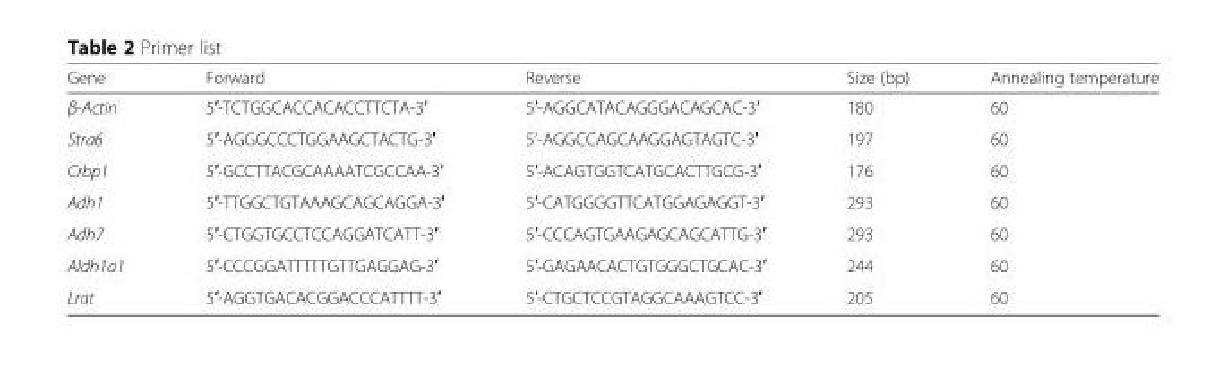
<table><thead><tr><td>Gene</td><td>Forward</td><td>Reverse</td><td>Size (bp)</td><td>Annealing temperature</td></tr></thead><tbody><tr><td>β-Actin</td><td>5′-TCTGGCACCACACCTTCTA-3′</td><td>5′-AGGCATACAGGGACAGCAC-3′</td><td>180</td><td>60</td></tr><tr><td>Stra6</td><td>5′-AGGGCCCTGGAAGCTACTG-3′</td><td>5’-AGGCCAGCAAGGAGTAGTC-3′</td><td>197</td><td>60</td></tr><tr><td>Crbp1</td><td>5′-GCCTTACGCAAAATCGCCAA-3′</td><td>5′-ACAGTGGTCATGCACTTGCG-3′</td><td>176</td><td>60</td></tr><tr><td>Adh1</td><td>5′-TTGGCTGTAAAGCAGCAGGA-3′</td><td>5′-CATGGGGTTCATGGAGAGGT-3′</td><td>293</td><td>60</td></tr><tr><td>Adh7</td><td>5′-CTGGTGCCTCCAGGATCATT-3′</td><td>5′-CCCAGTGAAGAGCAGCATTG-3′</td><td>293</td><td>60</td></tr><tr><td>Aldh1a1</td><td>5′-CCCGGATTTTTGTTGAGGAG-3′</td><td>5′-GAGAACACTGTGGGCTGCAC-3′</td><td>244</td><td>60</td></tr><tr><td>Lrat</td><td>5′-AGGTGACACGGACCCATTTT-3′</td><td>5′-CTGCTCCGTAGGCAAAGTCC-3′</td><td>205</td><td>60</td></tr></tbody></table>